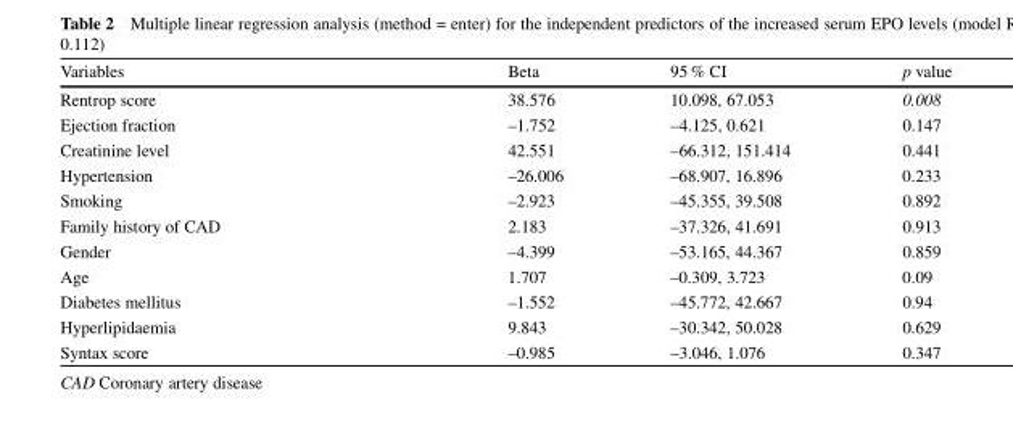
<table><thead><tr><td>Variables</td><td>Beta</td><td>95 % CI</td><td>p value</td></tr></thead><tbody><tr><td>Rentrop score</td><td>38.576</td><td>10.098, 67.053</td><td>0.008</td></tr><tr><td>Ejection fraction</td><td>–1.752</td><td>–4.125, 0.621</td><td>0.147</td></tr><tr><td>Creatinine level</td><td>42.551</td><td>–66.312, 151.414</td><td>0.441</td></tr><tr><td>Hypertension</td><td>–26.006</td><td>–68.907, 16.896</td><td>0.233</td></tr><tr><td>Smoking</td><td>–2.923</td><td>–45.355, 39.508</td><td>0.892</td></tr><tr><td>Family history of CAD</td><td>2.183</td><td>–37.326, 41.691</td><td>0.913</td></tr><tr><td>Gender</td><td>–4.399</td><td>–53.165, 44.367</td><td>0.859</td></tr><tr><td>Age</td><td>1.707</td><td>–0.309, 3.723</td><td>0.09</td></tr><tr><td>Diabetes mellitus</td><td>–1.552</td><td>–45.772, 42.667</td><td>0.94</td></tr><tr><td>Hyperlipidaemia</td><td>9.843</td><td>–30.342, 50.028</td><td>0.629</td></tr><tr><td>Syntax score</td><td>–0.985</td><td>–3.046, 1.076</td><td>0.347</td></tr></tbody></table>